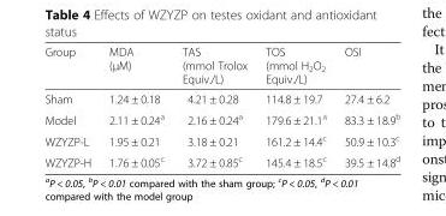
<table><thead><tr><td>Group</td><td>MDA (μM)</td><td>TAS (mmol Trolox Equiv./L)</td><td>TOS (mmol H<sub>2</sub>O<sub>2</sub> Equiv./L)</td><td>OSI</td></tr></thead><tbody><tr><td>Sham</td><td>1.24 ± 0.18</td><td>4.21 ± 0.28</td><td>114.8 ± 19.7</td><td>27.4 ± 6.2</td></tr><tr><td>Model</td><td>2.11 ± 0.24<sup>a</sup></td><td>2.16 ± 0.24<sup>a</sup></td><td>179.6 ± 21.1<sup>a</sup></td><td>83.3 ± 18.9<sup>b</sup></td></tr><tr><td>WZYZP-L</td><td>1.95 ± 0.21</td><td>3.18 ± 0.21</td><td>161.2 ± 14.4<sup>c</sup></td><td>50.9 ± 10.3<sup>c</sup></td></tr><tr><td>WZYZP-H</td><td>1.76 ± 0.05<sup>c</sup></td><td>3.72 ± 0.85<sup>c</sup></td><td>145.4 ± 18.5<sup>c</sup></td><td>39.5 ± 14.8<sup>d</sup></td></tr></tbody></table>